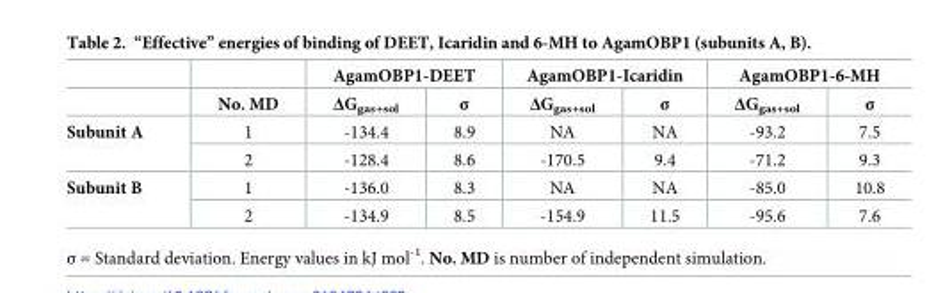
<table><thead><tr><td rowspan="2"></td><td rowspan="2">No. MD</td><td colspan="2">AgamOBP1-DEET</td><td colspan="2">AgamOBP1-Icaridin</td><td colspan="2">AgamOBP1-6-MH</td></tr><tr><td>ΔG<sub>gas+sol</sub></td><td>σ</td><td>ΔG<sub>gas+sol</sub></td><td>σ</td><td>ΔG<sub>gas+sol</sub></td><td>σ</td></tr></thead><tbody><tr><td rowspan="2">Subunit A</td><td>1</td><td>-134.4</td><td>8.9</td><td>NA</td><td>NA</td><td>-93.2</td><td>7.5</td></tr><tr><td>2</td><td>-128.4</td><td>8.6</td><td>-170.5</td><td>9.4</td><td>-71.2</td><td>9.3</td></tr><tr><td rowspan="2">Subunit B</td><td>1</td><td>-136.0</td><td>8.3</td><td>NA</td><td>NA</td><td>-85.0</td><td>10.8</td></tr><tr><td>2</td><td>-134.9</td><td>8.5</td><td>-154.9</td><td>11.5</td><td>-95.6</td><td>7.6</td></tr></tbody></table>